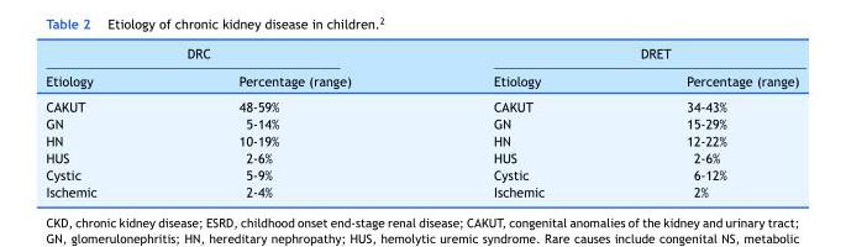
<table><thead><tr><td colspan="2">DRC</td><td colspan="2">DRET</td></tr><tr><td>Etiology</td><td>Percentage (range)</td><td>Etiology</td><td>Percentage (range)</td></tr></thead><tbody><tr><td>CAKUT</td><td>48-59%</td><td>CAKUT</td><td>34-43%</td></tr><tr><td>GN</td><td>5-14%</td><td>GN</td><td>15-29%</td></tr><tr><td>HN</td><td>10-19%</td><td>HN</td><td>12-22%</td></tr><tr><td>HUS</td><td>2-6%</td><td>HUS</td><td>2-6%</td></tr><tr><td>Cystic</td><td>5-9%</td><td>Cystic</td><td>6-12%</td></tr><tr><td>Ischemic</td><td>2-4%</td><td>Ischemic</td><td>2%</td></tr></tbody></table>